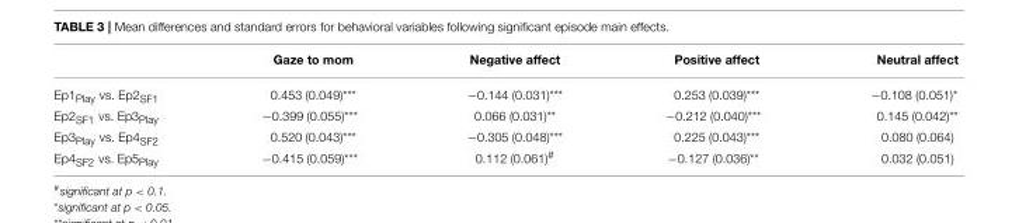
<table><thead><tr><td></td><td>Gaze to mom</td><td>Negative affect</td><td>Positive affect</td><td>Neutral affect</td></tr></thead><tbody><tr><td>Ep1<sub>Play</sub> vs. Ep2<sub>SF1</sub></td><td>0.453 (0.049)***</td><td>−0.144 (0.031)***</td><td>0.253 (0.039)***</td><td>−0.108 (0.051)*</td></tr><tr><td>Ep2<sub>SF1</sub> vs. Ep3<sub>Play</sub></td><td>−0.399 (0.055)***</td><td>0.066 (0.031)**</td><td>−0.212 (0.040)***</td><td>0.145 (0.042)**</td></tr><tr><td>Ep3<sub>Play</sub> vs. Ep4<sub>SF2</sub></td><td>0.520 (0.043)***</td><td>−0.305 (0.048)***</td><td>0.225 (0.043)***</td><td>0.080 (0.064)</td></tr><tr><td>Ep4<sub>SF2</sub> vs. Ep5<sub>Play</sub></td><td>−0.415 (0.059)***</td><td>0.112 (0.061)<sup>#</sup></td><td>−0.127 (0.036)**</td><td>0.032 (0.051)</td></tr></tbody></table>